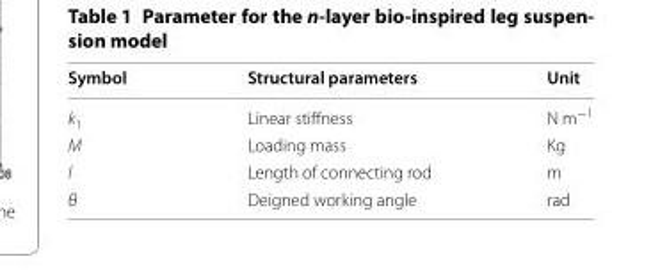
<table><thead><tr><td>Symbol</td><td>Structural parameters</td><td>Unit</td></tr></thead><tbody><tr><td>k<sub>1</sub></td><td>Linear stiffness</td><td>N m<sup>−1</sup></td></tr><tr><td>M</td><td>Loading mass</td><td>Kg</td></tr><tr><td>l</td><td>Length of connecting rod</td><td>m</td></tr><tr><td>θ</td><td>Deigned working angle</td><td>rad</td></tr></tbody></table>